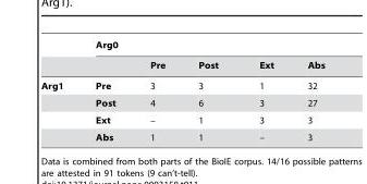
<table><thead><tr><td rowspan="2"></td><td colspan="5">Arg0</td></tr><tr><td></td><td>Pre</td><td>Post</td><td>Ext</td><td>Abs</td></tr></thead><tbody><tr><td rowspan="4">Arg1</td><td>Pre</td><td>3</td><td>3</td><td>1</td><td>32</td></tr><tr><td>Post</td><td>4</td><td>6</td><td>3</td><td>27</td></tr><tr><td>Ext</td><td>–</td><td>1</td><td>3</td><td>3</td></tr><tr><td>Abs</td><td>1</td><td>1</td><td>–</td><td>3</td></tr></tbody></table>